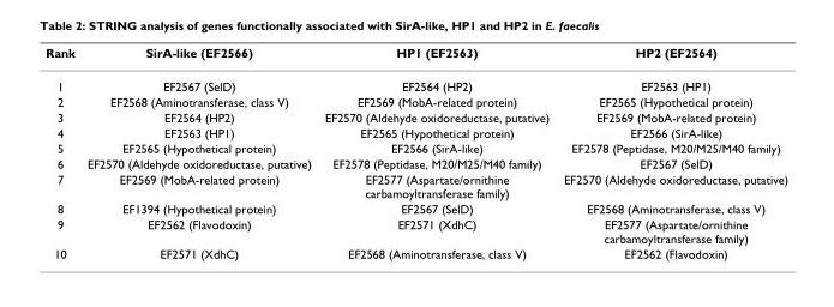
<table><thead><tr><td>Rank</td><td>SirA-like (EF2566)</td><td>HP1 (EF2563)</td><td>HP2 (EF2564)</td></tr></thead><tbody><tr><td>1</td><td>EF2567 (SelD)</td><td>EF2564 (HP2)</td><td>EF2563 (HP1)</td></tr><tr><td>2</td><td>EF2568 (Aminotransferase, class V)</td><td>EF2569 (MobA-related protein)</td><td>EF2565 (Hypothetical protein)</td></tr><tr><td>3</td><td>EF2564 (HP2)</td><td>EF2570 (Aldehyde oxidoreductase, putative)</td><td>EF2569 (MobA-related protein)</td></tr><tr><td>4</td><td>EF2563 (HP1)</td><td>EF2565 (Hypothetical protein)</td><td>EF2566 (SirA-like)</td></tr><tr><td>5</td><td>EF2565 (Hypothetical protein)</td><td>EF2566 (SirA-like)</td><td>EF2578 (Peptidase, M20/M25/M40 family)</td></tr><tr><td>6</td><td>EF2570 (Aldehyde oxidoreductase, putative)</td><td>EF2578 (Peptidase, M20/M25/M40 family)</td><td>EF2567 (SelD)</td></tr><tr><td>7</td><td>EF2569 (MobA-related protein)</td><td>EF2577 (Aspartate/ornithine carbamoyltransferase family)</td><td>EF2570 (Aldehyde oxidoreductase, putative)</td></tr><tr><td>8</td><td>EF1394 (Hypothetical protein)</td><td>EF2567 (SelD)</td><td>EF2568 (Aminotransferase, class V)</td></tr><tr><td>9</td><td>EF2562 (Flavodoxin)</td><td>EF2571 (XdhC)</td><td>EF2577 (Aspartate/ornithine carbamoyltransferase family)</td></tr><tr><td>10</td><td>EF2571 (XdhC)</td><td>EF2568 (Aminotransferase, class V)</td><td>EF2562 (Flavodoxin)</td></tr></tbody></table>